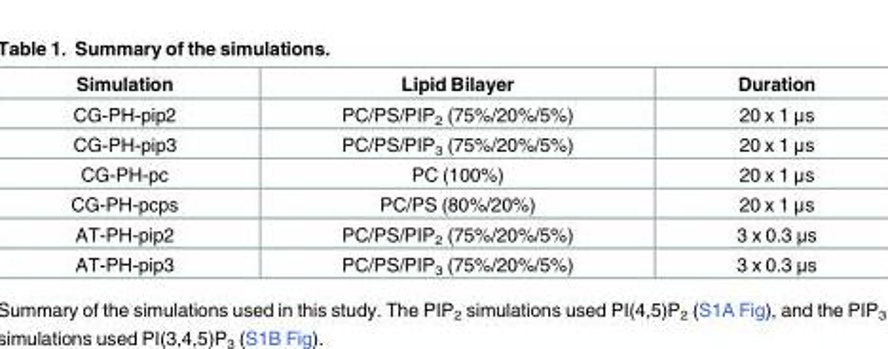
<table><thead><tr><td>Simulation</td><td>Lipid Bilayer</td><td>Duration</td></tr></thead><tbody><tr><td>CG-PH-pip2</td><td>PC/PS/PIP<sub>2</sub> (75%/20%/5%)</td><td>20 x 1 μs</td></tr><tr><td>CG-PH-pip3</td><td>PC/PS/PIP<sub>3</sub> (75%/20%/5%)</td><td>20 x 1 μs</td></tr><tr><td>CG-PH-pc</td><td>PC (100%)</td><td>20 x 1 μs</td></tr><tr><td>CG-PH-pcps</td><td>PC/PS (80%/20%)</td><td>20 x 1 μs</td></tr><tr><td>AT-PH-pip2</td><td>PC/PS/PIP<sub>2</sub> (75%/20%/5%)</td><td>3 x 0.3 μs</td></tr><tr><td>AT-PH-pip3</td><td>PC/PS/PIP<sub>3</sub> (75%/20%/5%)</td><td>3 x 0.3 μs</td></tr></tbody></table>